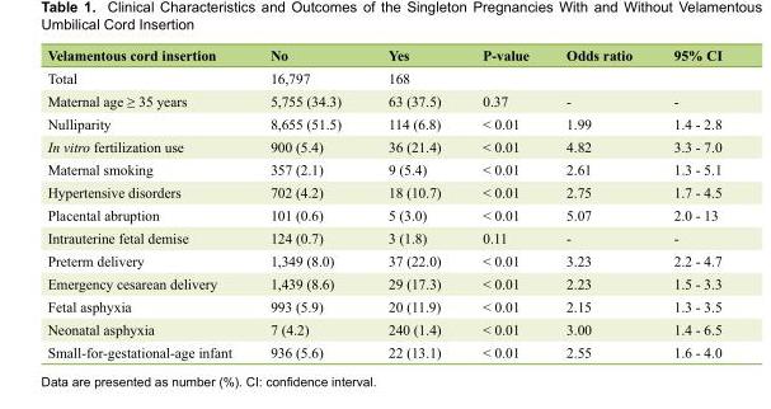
<table><thead><tr><td>Velamentous cord insertion</td><td>No</td><td>Yes</td><td>P-value</td><td>Odds ratio</td><td>95% CI</td></tr></thead><tbody><tr><td>Total</td><td>16,797</td><td>168</td><td></td><td></td><td></td></tr><tr><td>Maternal age ≥ 35 years</td><td>5,755 (34.3)</td><td>63 (37.5)</td><td>0.37</td><td>-</td><td>-</td></tr><tr><td>Nulliparity</td><td>8,655 (51.5)</td><td>114 (6.8)</td><td>&lt; 0.01</td><td>1.99</td><td>1.4 - 2.8</td></tr><tr><td>In vitro fertilization use</td><td>900 (5.4)</td><td>36 (21.4)</td><td>&lt; 0.01</td><td>4.82</td><td>3.3 - 7.0</td></tr><tr><td>Maternal smoking</td><td>357 (2.1)</td><td>9 (5.4)</td><td>&lt; 0.01</td><td>2.61</td><td>1.3 - 5.1</td></tr><tr><td>Hypertensive disorders</td><td>702 (4.2)</td><td>18 (10.7)</td><td>&lt; 0.01</td><td>2.75</td><td>1.7 - 4.5</td></tr><tr><td>Placental abruption</td><td>101 (0.6)</td><td>5 (3.0)</td><td>&lt; 0.01</td><td>5.07</td><td>2.0 - 13</td></tr><tr><td>Intrauterine fetal demise</td><td>124 (0.7)</td><td>3 (1.8)</td><td>0.11</td><td>-</td><td>-</td></tr><tr><td>Preterm delivery</td><td>1,349 (8.0)</td><td>37 (22.0)</td><td>&lt; 0.01</td><td>3.23</td><td>2.2 - 4.7</td></tr><tr><td>Emergency cesarean delivery</td><td>1,439 (8.6)</td><td>29 (17.3)</td><td>&lt; 0.01</td><td>2.23</td><td>1.5 - 3.3</td></tr><tr><td>Fetal asphyxia</td><td>993 (5.9)</td><td>20 (11.9)</td><td>&lt; 0.01</td><td>2.15</td><td>1.3 - 3.5</td></tr><tr><td>Neonatal asphyxia</td><td>7 (4.2)</td><td>240 (1.4)</td><td>&lt; 0.01</td><td>3.00</td><td>1.4 - 6.5</td></tr><tr><td>Small-for-gestational-age infant</td><td>936 (5.6)</td><td>22 (13.1)</td><td>&lt; 0.01</td><td>2.55</td><td>1.6 - 4.0</td></tr></tbody></table>